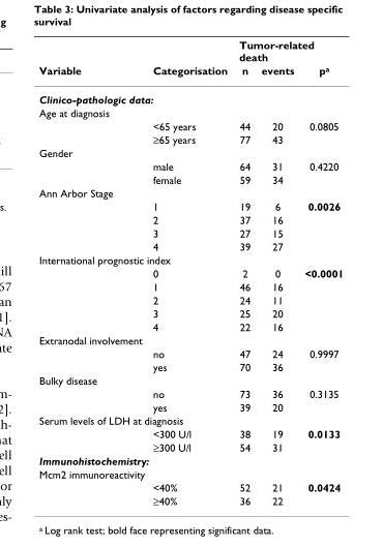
<table><thead><tr><td rowspan="2">Variable</td><td rowspan="2">Categorisation</td><td colspan="3">Tumor-related death</td></tr><tr><td>n</td><td>events</td><td>pa</td></tr></thead><tbody><tr><td colspan="5">Clinico-pathologic data:</td></tr><tr><td colspan="5">Age at diagnosis</td></tr><tr><td></td><td>&lt;65 years</td><td>44</td><td>20</td><td>0.0805</td></tr><tr><td></td><td>≥65 years</td><td>77</td><td>43</td><td></td></tr><tr><td colspan="5">Gender</td></tr><tr><td></td><td>male</td><td>64</td><td>31</td><td>0.4220</td></tr><tr><td></td><td>female</td><td>59</td><td>34</td><td></td></tr><tr><td colspan="5">Ann Arbor Stage</td></tr><tr><td></td><td>1</td><td>19</td><td>6</td><td>0.0026</td></tr><tr><td></td><td>2</td><td>37</td><td>16</td><td></td></tr><tr><td></td><td>3</td><td>27</td><td>15</td><td></td></tr><tr><td></td><td>4</td><td>39</td><td>27</td><td></td></tr><tr><td colspan="5">International prognostic index</td></tr><tr><td></td><td>0</td><td>2</td><td>0</td><td>&lt;0.0001</td></tr><tr><td></td><td>1</td><td>46</td><td>16</td><td></td></tr><tr><td></td><td>2</td><td>24</td><td>11</td><td></td></tr><tr><td></td><td>3</td><td>25</td><td>20</td><td></td></tr><tr><td></td><td>4</td><td>22</td><td>16</td><td></td></tr><tr><td colspan="5">Extranodal involvement</td></tr><tr><td></td><td>no</td><td>47</td><td>24</td><td>0.9997</td></tr><tr><td></td><td>yes</td><td>70</td><td>36</td><td></td></tr><tr><td colspan="5">Bulky disease</td></tr><tr><td></td><td>no</td><td>73</td><td>36</td><td>0.3135</td></tr><tr><td></td><td>yes</td><td>39</td><td>20</td><td></td></tr><tr><td colspan="5">Serum levels of LDH at diagnosis</td></tr><tr><td></td><td>&lt;300 U/l</td><td>38</td><td>19</td><td>0.0133</td></tr><tr><td></td><td>≥300 U/l</td><td>54</td><td>31</td><td></td></tr><tr><td colspan="5">Immunohistochemistry:</td></tr><tr><td colspan="5">Mcm2 immunoreactivity</td></tr><tr><td></td><td>&lt;40%</td><td>52</td><td>21</td><td>0.0424</td></tr><tr><td></td><td>≥40%</td><td>36</td><td>22</td><td></td></tr></tbody></table>